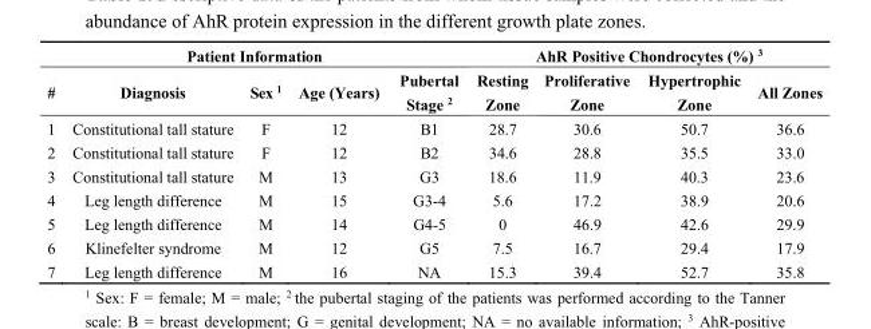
<table><thead><tr><td colspan="5">Patient Information</td><td colspan="4">AhR Positive Chondrocytes (%) <sup>3</sup></td></tr><tr><td>#</td><td>Diagnosis</td><td>Sex <sup>1</sup></td><td>Age (Years)</td><td>Pubertal Stage <sup>2</sup></td><td>Resting Zone</td><td>Proliferative Zone</td><td>Hypertrophic Zone</td><td>All Zones</td></tr></thead><tbody><tr><td>1</td><td>Constitutional tall stature</td><td>F</td><td>12</td><td>B1</td><td>28.7</td><td>30.6</td><td>50.7</td><td>36.6</td></tr><tr><td>2</td><td>Constitutional tall stature</td><td>F</td><td>12</td><td>B2</td><td>34.6</td><td>28.8</td><td>35.5</td><td>33.0</td></tr><tr><td>3</td><td>Constitutional tall stature</td><td>M</td><td>13</td><td>G3</td><td>18.6</td><td>11.9</td><td>40.3</td><td>23.6</td></tr><tr><td>4</td><td>Leg length difference</td><td>M</td><td>15</td><td>G3-4</td><td>5.6</td><td>17.2</td><td>38.9</td><td>20.6</td></tr><tr><td>5</td><td>Leg length difference</td><td>M</td><td>14</td><td>G4-5</td><td>0</td><td>46.9</td><td>42.6</td><td>29.9</td></tr><tr><td>6</td><td>Klinefelter syndrome</td><td>M</td><td>12</td><td>G5</td><td>7.5</td><td>16.7</td><td>29.4</td><td>17.9</td></tr><tr><td>7</td><td>Leg length difference</td><td>M</td><td>16</td><td>NA</td><td>15.3</td><td>39.4</td><td>52.7</td><td>35.8</td></tr></tbody></table>